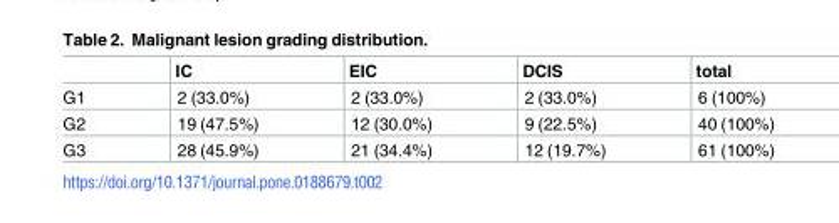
<table><thead><tr><td></td><td>IC</td><td>EIC</td><td>DCIS</td><td>total</td></tr></thead><tbody><tr><td>G1</td><td>2 (33.0%)</td><td>2 (33.0%)</td><td>2 (33.0%)</td><td>6 (100%)</td></tr><tr><td>G2</td><td>19 (47.5%)</td><td>12 (30.0%)</td><td>9 (22.5%)</td><td>40 (100%)</td></tr><tr><td>G3</td><td>28 (45.9%)</td><td>21 (34.4%)</td><td>12 (19.7%)</td><td>61 (100%)</td></tr></tbody></table>